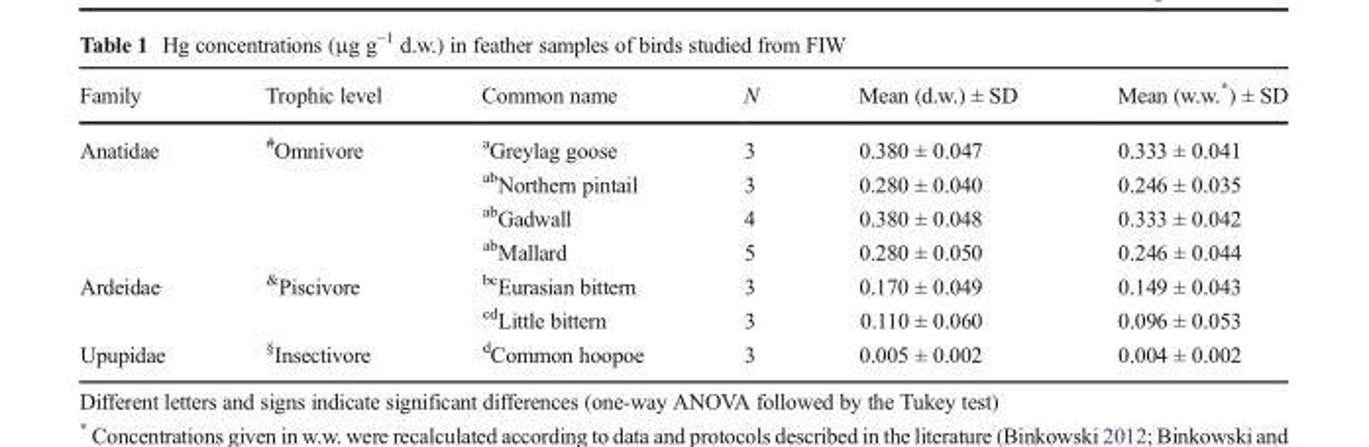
<table><thead><tr><td>Family</td><td>Trophic level</td><td>Common name</td><td>N</td><td>Mean (d.w.) ± SD</td><td>Mean (w.w.*) ± SD</td></tr></thead><tbody><tr><td rowspan="4">Anatidae</td><td rowspan="4"><sup>#</sup>Omnivore</td><td><sup>a</sup>Greylag goose</td><td>3</td><td>0.380 ± 0.047</td><td>0.333 ± 0.041</td></tr><tr><td><sup>ab</sup>Northern pintail</td><td>3</td><td>0.280 ± 0.040</td><td>0.246 ± 0.035</td></tr><tr><td><sup>ab</sup>Gadwall</td><td>4</td><td>0.380 ± 0.048</td><td>0.333 ± 0.042</td></tr><tr><td><sup>ab</sup>Mallard</td><td>5</td><td>0.280 ± 0.050</td><td>0.246 ± 0.044</td></tr><tr><td rowspan="2">Ardeidae</td><td rowspan="2"><sup>&amp;</sup>Piscivore</td><td><sup>bc</sup>Eurasian bittern</td><td>3</td><td>0.170 ± 0.049</td><td>0.149 ± 0.043</td></tr><tr><td><sup>cd</sup>Little bittern</td><td>3</td><td>0.110 ± 0.060</td><td>0.096 ± 0.053</td></tr><tr><td>Upupidae</td><td><sup>§</sup>Insectivore</td><td><sup>d</sup>Common hoopoe</td><td>3</td><td>0.005 ± 0.002</td><td>0.004 ± 0.002</td></tr></tbody></table>